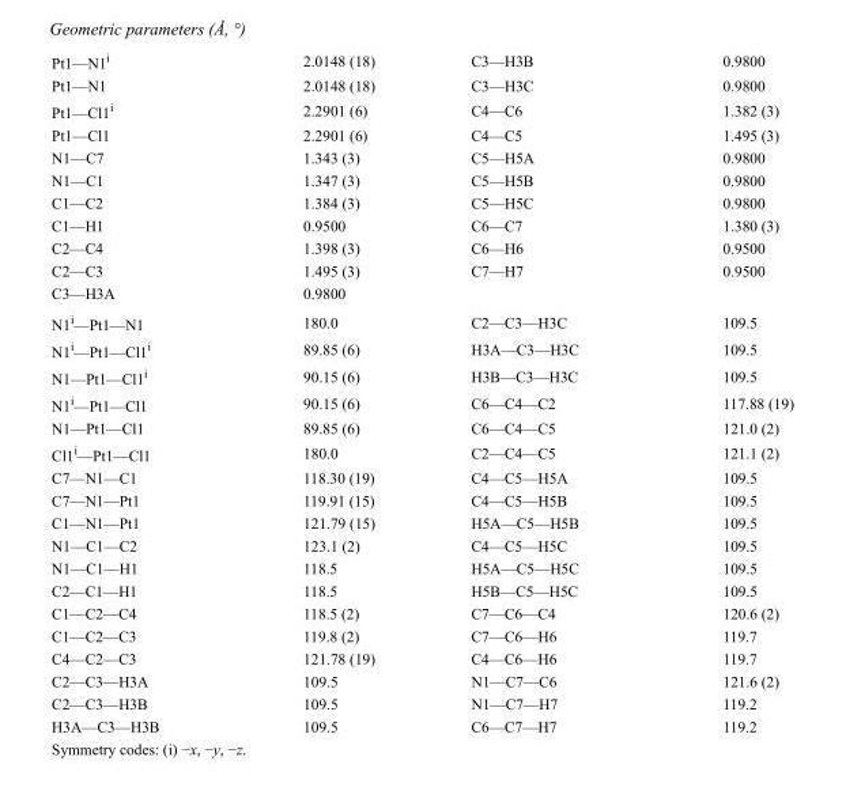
<table><tbody><tr><td>Pt1—N1<sup>i</sup></td><td>2.0148 (18)</td><td>C3—H3B</td><td>0.9800</td></tr><tr><td>Pt1—N1</td><td>2.0148 (18)</td><td>C3—H3C</td><td>0.9800</td></tr><tr><td>Pt1—Cl1<sup>i</sup></td><td>2.2901 (6)</td><td>C4—C6</td><td>1.382 (3)</td></tr><tr><td>Pt1—Cl1</td><td>2.2901 (6)</td><td>C4—C5</td><td>1.495 (3)</td></tr><tr><td>N1—C7</td><td>1.343 (3)</td><td>C5—H5A</td><td>0.9800</td></tr><tr><td>N1—C1</td><td>1.347 (3)</td><td>C5—H5B</td><td>0.9800</td></tr><tr><td>C1—C2</td><td>1.384 (3)</td><td>C5—H5C</td><td>0.9800</td></tr><tr><td>C1—H1</td><td>0.9500</td><td>C6—C7</td><td>1.380 (3)</td></tr><tr><td>C2—C4</td><td>1.398 (3)</td><td>C6—H6</td><td>0.9500</td></tr><tr><td>C2—C3</td><td>1.495 (3)</td><td>C7—H7</td><td>0.9500</td></tr><tr><td>C3—H3A</td><td>0.9800</td><td></td><td></td></tr><tr><td>N1<sup>i</sup>—Pt1—N1</td><td>180.0</td><td>C2—C3—H3C</td><td>109.5</td></tr><tr><td>N1<sup>i</sup>—Pt1—Cl1<sup>i</sup></td><td>89.85 (6)</td><td>H3A—C3—H3C</td><td>109.5</td></tr><tr><td>N1—Pt1—Cl1<sup>i</sup></td><td>90.15 (6)</td><td>H3B—C3—H3C</td><td>109.5</td></tr><tr><td>N1<sup>i</sup>—Pt1—Cl1</td><td>90.15 (6)</td><td>C6—C4—C2</td><td>117.88 (19)</td></tr><tr><td>N1—Pt1—Cl1</td><td>89.85 (6)</td><td>C6—C4—C5</td><td>121.0 (2)</td></tr><tr><td>Cl1<sup>i</sup>—Pt1—Cl1</td><td>180.0</td><td>C2—C4—C5</td><td>121.1 (2)</td></tr><tr><td>C7—N1—C1</td><td>118.30 (19)</td><td>C4—C5—H5A</td><td>109.5</td></tr><tr><td>C7—N1—Pt1</td><td>119.91 (15)</td><td>C4—C5—H5B</td><td>109.5</td></tr><tr><td>C1—N1—Pt1</td><td>121.79 (15)</td><td>H5A—C5—H5B</td><td>109.5</td></tr><tr><td>N1—C1—C2</td><td>123.1 (2)</td><td>C4—C5—H5C</td><td>109.5</td></tr><tr><td>N1—C1—H1</td><td>118.5</td><td>H5A—C5—H5C</td><td>109.5</td></tr><tr><td>C2—C1—H1</td><td>118.5</td><td>H5B—C5—H5C</td><td>109.5</td></tr><tr><td>C1—C2—C4</td><td>118.5 (2)</td><td>C7—C6—C4</td><td>120.6 (2)</td></tr><tr><td>C1—C2—C3</td><td>119.8 (2)</td><td>C7—C6—H6</td><td>119.7</td></tr><tr><td>C4—C2—C3</td><td>121.78 (19)</td><td>C4—C6—H6</td><td>119.7</td></tr><tr><td>C2—C3—H3A</td><td>109.5</td><td>N1—C7—C6</td><td>121.6 (2)</td></tr><tr><td>C2—C3—H3B</td><td>109.5</td><td>N1—C7—H7</td><td>119.2</td></tr><tr><td>H3A—C3—H3B</td><td>109.5</td><td>C6—C7—H7</td><td>119.2</td></tr></tbody></table>